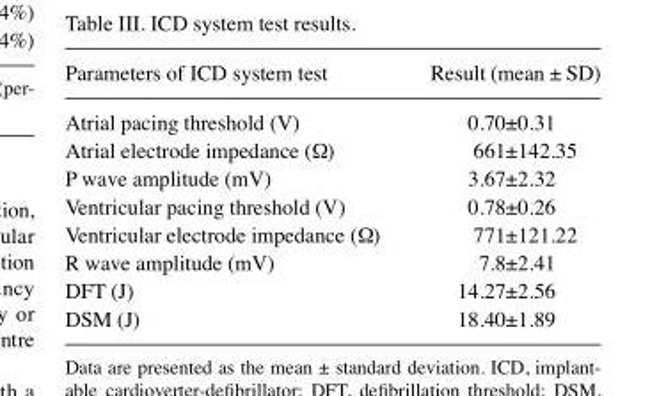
<table><thead><tr><td>Parameters of ICD system test</td><td>Result (mean ± SD)</td></tr></thead><tbody><tr><td>Atrial pacing threshold (V)</td><td>0.70±0.31</td></tr><tr><td>Atrial electrode impedance (Ω)</td><td>661±142.35</td></tr><tr><td>P wave amplitude (mV)</td><td>3.67±2.32</td></tr><tr><td>Ventricular pacing threshold (V)</td><td>0.78±0.26</td></tr><tr><td>Ventricular electrode impedance (Ω)</td><td>771±121.22</td></tr><tr><td>R wave amplitude (mV)</td><td>7.8±2.41</td></tr><tr><td>DFT (J)</td><td>14.27±2.56</td></tr><tr><td>DSM (J)</td><td>18.40±1.89</td></tr></tbody></table>